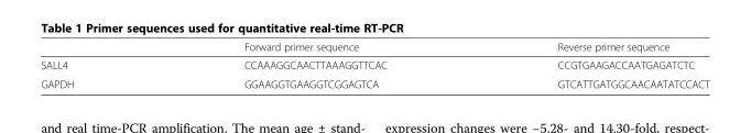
<table><thead><tr><td></td><td>Forward primer sequence</td><td>Reverse primer sequence</td></tr></thead><tbody><tr><td>SALL4</td><td>CCAAAGGCAACTTAAAGGTTCAC</td><td>CCGTGAAGACCAATGAGATCTC</td></tr><tr><td>GAPDH</td><td>GGAAGGTGAAGGTCGGAGTCA</td><td>GTCATTGATGGCAACAATATCCACT</td></tr></tbody></table>